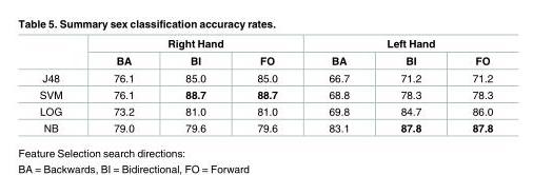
<table><thead><tr><td rowspan="2"></td><td colspan="3">Right Hand</td><td colspan="3">Left Hand</td></tr><tr><td>BA</td><td>BI</td><td>FO</td><td>BA</td><td>BI</td><td>FO</td></tr></thead><tbody><tr><td>J48</td><td>76.1</td><td>85.0</td><td>85.0</td><td>66.7</td><td>71.2</td><td>71.2</td></tr><tr><td>SVM</td><td>76.1</td><td>88.7</td><td>88.7</td><td>68.8</td><td>78.3</td><td>78.3</td></tr><tr><td>LOG</td><td>73.2</td><td>81.0</td><td>81.0</td><td>69.8</td><td>84.7</td><td>86.0</td></tr><tr><td>NB</td><td>79.0</td><td>79.6</td><td>79.6</td><td>83.1</td><td>87.8</td><td>87.8</td></tr></tbody></table>